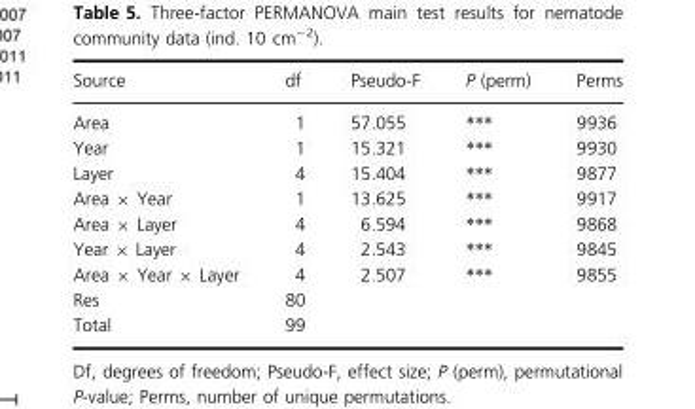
<table><thead><tr><td>Source</td><td>df</td><td>Pseudo-F</td><td>P (perm)</td><td>Perms</td></tr></thead><tbody><tr><td>Area</td><td>1</td><td>57.055</td><td>***</td><td>9936</td></tr><tr><td>Year</td><td>1</td><td>15.321</td><td>***</td><td>9930</td></tr><tr><td>Layer</td><td>4</td><td>15.404</td><td>***</td><td>9877</td></tr><tr><td>Area × Year</td><td>1</td><td>13.625</td><td>***</td><td>9917</td></tr><tr><td>Area × Layer</td><td>4</td><td>6.594</td><td>***</td><td>9868</td></tr><tr><td>Year × Layer</td><td>4</td><td>2.543</td><td>***</td><td>9845</td></tr><tr><td>Area × Year × Layer</td><td>4</td><td>2.507</td><td>***</td><td>9855</td></tr><tr><td>Res</td><td>80</td><td></td><td></td><td></td></tr><tr><td>Total</td><td>99</td><td></td><td></td><td></td></tr></tbody></table>